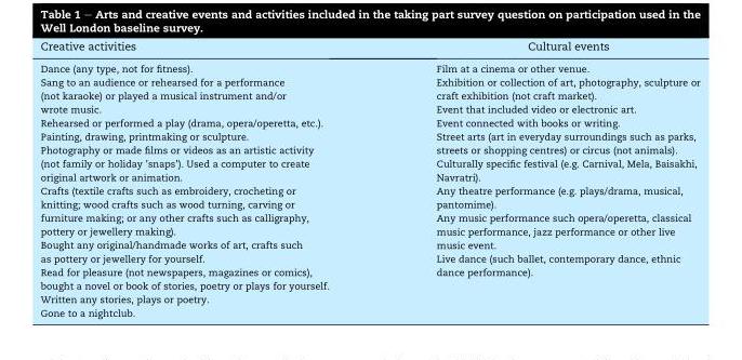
<table><thead><tr><td>Creative activities</td><td>Cultural events</td></tr></thead><tbody><tr><td>Dance (any type, not for fitness). Sang to an audience or rehearsed for a performance (not karaoke) or played a musical instrument and/or wrote music. Rehearsed or performed a play (drama, opera/operetta, etc.). Painting, drawing, printmaking or sculpture. Photography or made films or videos as an artistic activity (not family or holiday ’snaps’). Used a computer to create original artwork or animation. Crafts (textile crafts such as embroidery, crocheting or knitting; wood crafts such as wood turning, carving or furniture making; or any other crafts such as calligraphy, pottery or jewellery making). Bought any original/handmade works of art, crafts such as pottery or jewellery for yourself. Read for pleasure (not newspapers, magazines or comics), bought a novel or book of stories, poetry or plays for yourself. Written any stories, plays or poetry. Gone to a nightclub.</td><td>Film at a cinema or other venue. Exhibition or collection of art, photography, sculpture or craft exhibition (not craft market). Event that included video or electronic art. Event connected with books or writing. Street arts (art in everyday surroundings such as parks, streets or shopping centres) or circus (not animals). Culturally specific festival (e.g. Carnival, Mela, Baisakhi, Navratri). Any theatre performance (e.g. plays/drama, musical, pantomime). Any music performance such opera/operetta, classical music performance, jazz performance or other live music event. Live dance (such ballet, contemporary dance, ethnic dance performance).</td></tr></tbody></table>